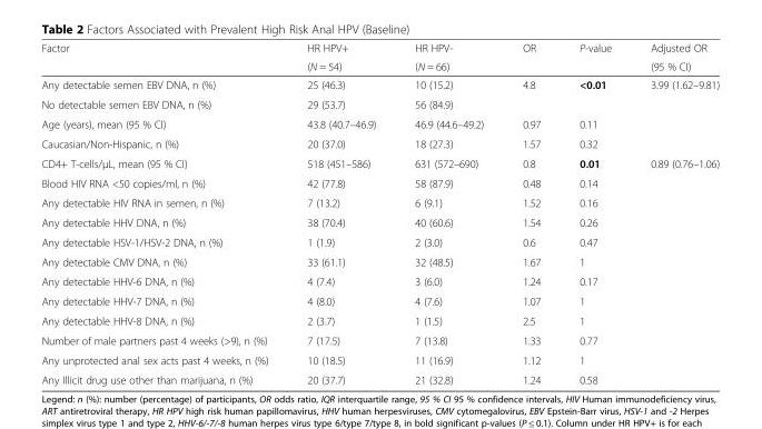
<table><thead><tr><td rowspan="2">Factor</td><td rowspan="2">HR HPV+ (N = 54)</td><td rowspan="2">HR HPV- (N = 66)</td><td rowspan="2">OR</td><td rowspan="2">P-value</td><td rowspan="2">Adjusted OR (95 % CI)</td></tr><tr></tr></thead><tbody><tr><td>Any detectable semen EBV DNA, n (%)</td><td>25 (46.3)</td><td>10 (15.2)</td><td rowspan="2">4.8</td><td rowspan="2">&lt;0.01</td><td rowspan="2">3.99 (1.62–9.81)</td></tr><tr><td>No detectable semen EBV DNA, n (%)</td><td>29 (53.7)</td><td>56 (84.9)</td></tr><tr><td>Age (years), mean (95 % CI)</td><td>43.8 (40.7–46.9)</td><td>46.9 (44.6–49.2)</td><td>0.97</td><td>0.11</td><td></td></tr><tr><td>Caucasian/Non-Hispanic, n (%)</td><td>20 (37.0)</td><td>18 (27.3)</td><td>1.57</td><td>0.32</td><td></td></tr><tr><td>CD4+ T-cells/μL, mean (95 % CI)</td><td>518 (451–586)</td><td>631 (572–690)</td><td>0.8</td><td>0.01</td><td>0.89 (0.76–1.06)</td></tr><tr><td>Blood HIV RNA &lt;50 copies/ml, n (%)</td><td>42 (77.8)</td><td>58 (87.9)</td><td>0.48</td><td>0.14</td><td></td></tr><tr><td>Any detectable HIV RNA in semen, n (%)</td><td>7 (13.2)</td><td>6 (9.1)</td><td>1.52</td><td>0.16</td><td></td></tr><tr><td>Any detectable HHV DNA, n (%)</td><td>38 (70.4)</td><td>40 (60.6)</td><td>1.54</td><td>0.26</td><td></td></tr><tr><td>Any detectable HSV-1/HSV-2 DNA, n (%)</td><td>1 (1.9)</td><td>2 (3.0)</td><td>0.6</td><td>0.47</td><td></td></tr><tr><td>Any detectable CMV DNA, n (%)</td><td>33 (61.1)</td><td>32 (48.5)</td><td>1.67</td><td>1</td><td></td></tr><tr><td>Any detectable HHV-6 DNA, n (%)</td><td>4 (7.4)</td><td>3 (6.0)</td><td>1.24</td><td>0.17</td><td></td></tr><tr><td>Any detectable HHV-7 DNA, n (%)</td><td>4 (8.0)</td><td>4 (7.6)</td><td>1.07</td><td>1</td><td></td></tr><tr><td>Any detectable HHV-8 DNA, n (%)</td><td>2 (3.7)</td><td>1 (1.5)</td><td>2.5</td><td>1</td><td></td></tr><tr><td>Number of male partners past 4 weeks (&gt;9), n (%)</td><td>7 (17.5)</td><td>7 (13.8)</td><td>1.33</td><td>0.77</td><td></td></tr><tr><td>Any unprotected anal sex acts past 4 weeks, n (%)</td><td>10 (18.5)</td><td>11 (16.9)</td><td>1.12</td><td>1</td><td></td></tr><tr><td>Any Illicit drug use other than marijuana, n (%)</td><td>20 (37.7)</td><td>21 (32.8)</td><td>1.24</td><td>0.58</td><td></td></tr></tbody></table>